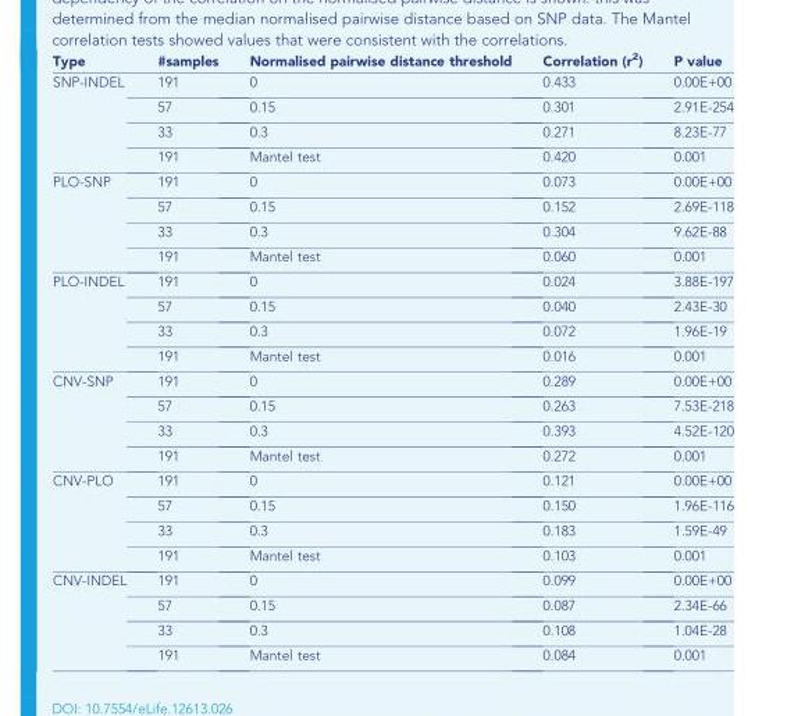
<table><thead><tr><td>Type</td><td>#samples</td><td>Normalised pairwise distance threshold</td><td>Correlation (r<sup>2</sup>)</td><td>P value</td></tr></thead><tbody><tr><td rowspan="4">SNP-INDEL</td><td>191</td><td>0</td><td>0.433</td><td>0.00E+00</td></tr><tr><td>57</td><td>0.15</td><td>0.301</td><td>2.91E-254</td></tr><tr><td>33</td><td>0.3</td><td>0.271</td><td>8.23E-77</td></tr><tr><td>191</td><td>Mantel test</td><td>0.420</td><td>0.001</td></tr><tr><td rowspan="4">PLO-SNP</td><td>191</td><td>0</td><td>0.073</td><td>0.00E+00</td></tr><tr><td>57</td><td>0.15</td><td>0.152</td><td>2.69E-118</td></tr><tr><td>33</td><td>0.3</td><td>0.304</td><td>9.62E-88</td></tr><tr><td>191</td><td>Mantel test</td><td>0.060</td><td>0.001</td></tr><tr><td rowspan="4">PLO-INDEL</td><td>191</td><td>0</td><td>0.024</td><td>3.88E-197</td></tr><tr><td>57</td><td>0.15</td><td>0.040</td><td>2.43E-30</td></tr><tr><td>33</td><td>0.3</td><td>0.072</td><td>1.96E-19</td></tr><tr><td>191</td><td>Mantel test</td><td>0.016</td><td>0.001</td></tr><tr><td rowspan="4">CNV-SNP</td><td>191</td><td>0</td><td>0.289</td><td>0.00E+00</td></tr><tr><td>57</td><td>0.15</td><td>0.263</td><td>7.53E-218</td></tr><tr><td>33</td><td>0.3</td><td>0.393</td><td>4.52E-120</td></tr><tr><td>191</td><td>Mantel test</td><td>0.272</td><td>0.001</td></tr><tr><td rowspan="4">CNV-PLO</td><td>191</td><td>0</td><td>0.121</td><td>0.00E+00</td></tr><tr><td>57</td><td>0.15</td><td>0.150</td><td>1.96E-116</td></tr><tr><td>33</td><td>0.3</td><td>0.183</td><td>1.59E-49</td></tr><tr><td>191</td><td>Mantel test</td><td>0.103</td><td>0.001</td></tr><tr><td rowspan="4">CNV-INDEL</td><td>191</td><td>0</td><td>0.099</td><td>0.00E+00</td></tr><tr><td>57</td><td>0.15</td><td>0.087</td><td>2.34E-66</td></tr><tr><td>33</td><td>0.3</td><td>0.108</td><td>1.04E-28</td></tr><tr><td>191</td><td>Mantel test</td><td>0.084</td><td>0.001</td></tr></tbody></table>